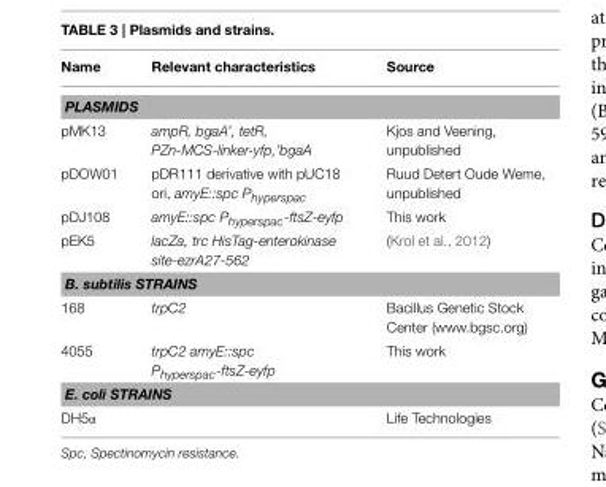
<table><thead><tr><td>Name</td><td>Relevant characteristics</td><td>Source</td></tr></thead><tbody><tr><td colspan="3">PLASMIDS</td></tr><tr><td>pMK13</td><td>ampR, bgaA’, tetR, PZn-MCS-linker-yfp,’bgaA</td><td>Kjos and Veening, unpublished</td></tr><tr><td>pDOW01</td><td>pDR111 derivative with pUC18 ori, amyE::spc P<sub>hyperspac</sub></td><td>Ruud Detert Oude Weme, unpublished</td></tr><tr><td>pDJ108</td><td>amyE::spc P<sub>hyperspac</sub>-ftsZ-eyfp</td><td>This work</td></tr><tr><td>pEK5</td><td>lacZa, trc HisTag-enterokinase site-ezrA27-562</td><td>(Krol et al., 2012)</td></tr><tr><td colspan="3">B. subtilis STRAINS</td></tr><tr><td>168</td><td>trpC2</td><td>Bacillus Genetic Stock Center (www.bgsc.org)</td></tr><tr><td>4055</td><td>trpC2 amyE::spc P<sub>hyperspac</sub>-ftsZ-eyfp</td><td>This work</td></tr><tr><td colspan="3">E. coli STRAINS</td></tr><tr><td>DH5α</td><td></td><td>Life Technologies</td></tr></tbody></table>